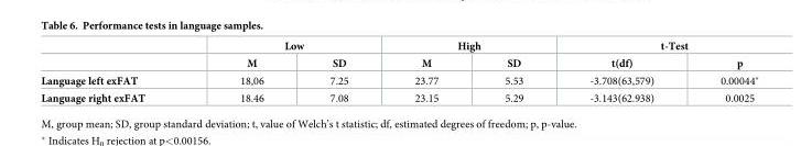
<table><thead><tr><td rowspan="2"></td><td colspan="2">Low</td><td colspan="2">High</td><td colspan="2">t-Test</td></tr><tr><td>M</td><td>SD</td><td>M</td><td>SD</td><td>t(df)</td><td>p</td></tr></thead><tbody><tr><td>Language left exFAT</td><td>18,06</td><td>7.25</td><td>23.77</td><td>5.53</td><td>-3.708(63,579)</td><td>0.00044*</td></tr><tr><td>Language right exFAT</td><td>18.46</td><td>7.08</td><td>23.15</td><td>5.29</td><td>-3.143(62.938)</td><td>0.0025</td></tr></tbody></table>